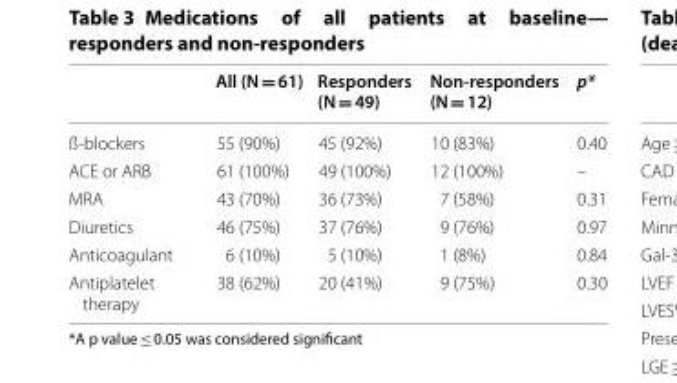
<table><thead><tr><td></td><td>All (N = 61)</td><td>Responders (N = 49)</td><td>Non‑responders (N = 12)</td><td>p*</td></tr></thead><tbody><tr><td>ß-blockers</td><td>55 (90%)</td><td>45 (92%)</td><td>10 (83%)</td><td>0.40</td></tr><tr><td>ACE or ARB</td><td>61 (100%)</td><td>49 (100%)</td><td>12 (100%)</td><td>–</td></tr><tr><td>MRA</td><td>43 (70%)</td><td>36 (73%)</td><td>7 (58%)</td><td>0.31</td></tr><tr><td>Diuretics</td><td>46 (75%)</td><td>37 (76%)</td><td>9 (76%)</td><td>0.97</td></tr><tr><td>Anticoagulant</td><td>6 (10%)</td><td>5 (10%)</td><td>1 (8%)</td><td>0.84</td></tr><tr><td>Antiplatelet therapy</td><td>38 (62%)</td><td>20 (41%)</td><td>9 (75%)</td><td>0.30</td></tr></tbody></table>